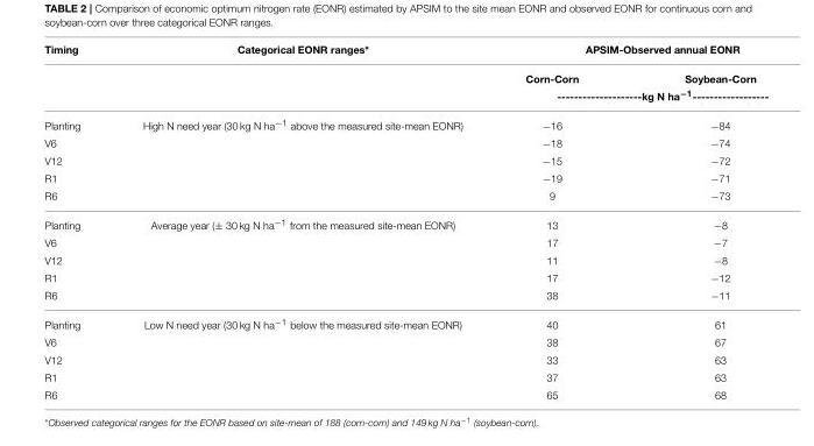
<table><thead><tr><td rowspan="2">Timing</td><td rowspan="2">Categorical EONR ranges*</td><td colspan="2">APSIM-Observed annual EONR</td></tr><tr><td>Corn-Corn</td><td>Soybean-Corn</td></tr></thead><tbody><tr><td></td><td></td><td colspan="2">--------------------kg N ha<sup>−1</sup>------------------</td></tr><tr><td>Planting</td><td>High N need year (30 kg N ha<sup>−1</sup> above the measured site-mean EONR)</td><td>−16</td><td>−84</td></tr><tr><td>V6</td><td></td><td>−18</td><td>−74</td></tr><tr><td>V12</td><td></td><td>−15</td><td>−72</td></tr><tr><td>R1</td><td></td><td>−19</td><td>−71</td></tr><tr><td>R6</td><td></td><td>9</td><td>−73</td></tr><tr><td>Planting</td><td>Average year (± 30 kg N ha<sup>−1</sup> from the measured site-mean EONR)</td><td>13</td><td>−8</td></tr><tr><td>V6</td><td></td><td>17</td><td>−7</td></tr><tr><td>V12</td><td></td><td>11</td><td>−8</td></tr><tr><td>R1</td><td></td><td>17</td><td>−12</td></tr><tr><td>R6</td><td></td><td>38</td><td>−11</td></tr><tr><td>Planting</td><td>Low N need year (30 kg N ha<sup>−1</sup> below the measured site-mean EONR)</td><td>40</td><td>61</td></tr><tr><td>V6</td><td></td><td>38</td><td>67</td></tr><tr><td>V12</td><td></td><td>33</td><td>63</td></tr><tr><td>R1</td><td></td><td>37</td><td>63</td></tr><tr><td>R6</td><td></td><td>65</td><td>68</td></tr></tbody></table>